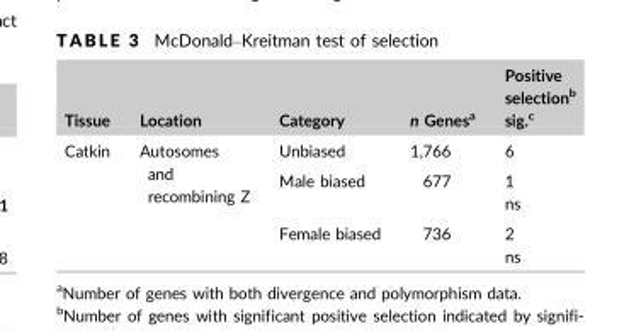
<table><thead><tr><td>Tissue</td><td>Location</td><td>Category</td><td>n Genes<sup>a</sup></td><td>Positive selection<sup>b</sup> sig.<sup>c</sup></td></tr></thead><tbody><tr><td rowspan="3">Catkin</td><td rowspan="3">Autosomes and recombining Z</td><td>Unbiased</td><td>1,766</td><td>6</td></tr><tr><td>Male biased</td><td>677</td><td>1 ns</td></tr><tr><td>Female biased</td><td>736</td><td>2 ns</td></tr></tbody></table>